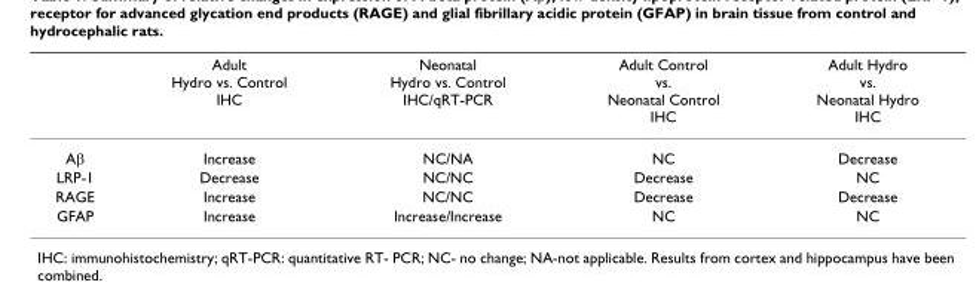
<table><thead><tr><td></td><td>Adult Hydro vs. Control IHC</td><td>Neonatal Hydro vs. Control IHC/qRT-PCR</td><td>Adult Control vs. Neonatal Control IHC</td><td>Adult Hydro vs. Neonatal Hydro IHC</td></tr></thead><tbody><tr><td>Aβ</td><td>Increase</td><td>NC/NA</td><td>NC</td><td>Decrease</td></tr><tr><td>LRP-1</td><td>Decrease</td><td>NC/NC</td><td>Decrease</td><td>NC</td></tr><tr><td>RAGE</td><td>Increase</td><td>NC/NC</td><td>Decrease</td><td>Decrease</td></tr><tr><td>GFAP</td><td>Increase</td><td>Increase/Increase</td><td>NC</td><td>NC</td></tr></tbody></table>